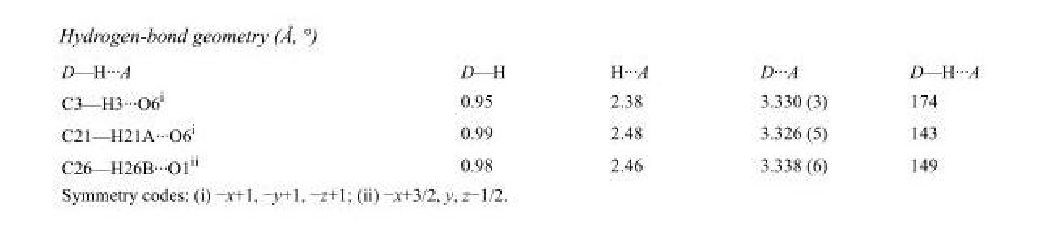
<table><tbody><tr><td>D—H···A</td><td>D—H</td><td>H···A</td><td>D···A</td><td>D—H···A</td></tr><tr><td>C3—H3···O6<sup>i</sup></td><td>0.95</td><td>2.38</td><td>3.330 (3)</td><td>174</td></tr><tr><td>C21—H21A···O6<sup>i</sup></td><td>0.99</td><td>2.48</td><td>3.326 (5)</td><td>143</td></tr><tr><td>C26—H26B···O1<sup>ii</sup></td><td>0.98</td><td>2.46</td><td>3.338 (6)</td><td>149</td></tr></tbody></table>